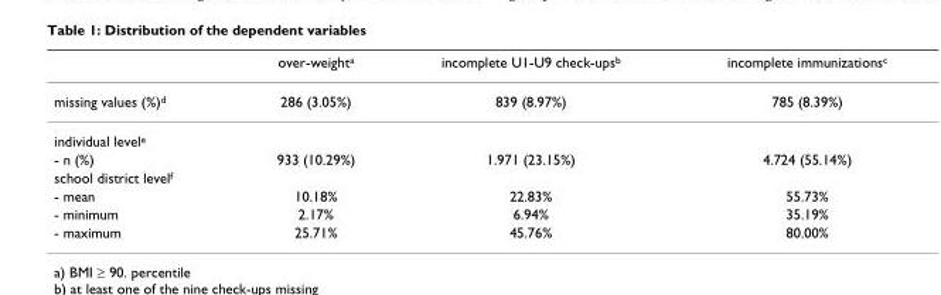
<table><thead><tr><td></td><td>over-weight<sup>a</sup></td><td>incomplete U1-U9 check-ups<sup>b</sup></td><td>incomplete immunizations<sup>c</sup></td></tr></thead><tbody><tr><td>missing values (%)<sup>d</sup></td><td>286 (3.05%)</td><td>839 (8.97%)</td><td>785 (8.39%)</td></tr><tr><td colspan="4">individual level<sup>e</sup></td></tr><tr><td>- n (%)</td><td>933 (10.29%)</td><td>1.971 (23.15%)</td><td>4.724 (55.14%)</td></tr><tr><td colspan="4">school district level<sup>f</sup></td></tr><tr><td>- mean</td><td>10.18%</td><td>22.83%</td><td>55.73%</td></tr><tr><td>- minimum</td><td>2.17%</td><td>6.94%</td><td>35.19%</td></tr><tr><td>- maximum</td><td>25.71%</td><td>45.76%</td><td>80.00%</td></tr></tbody></table>